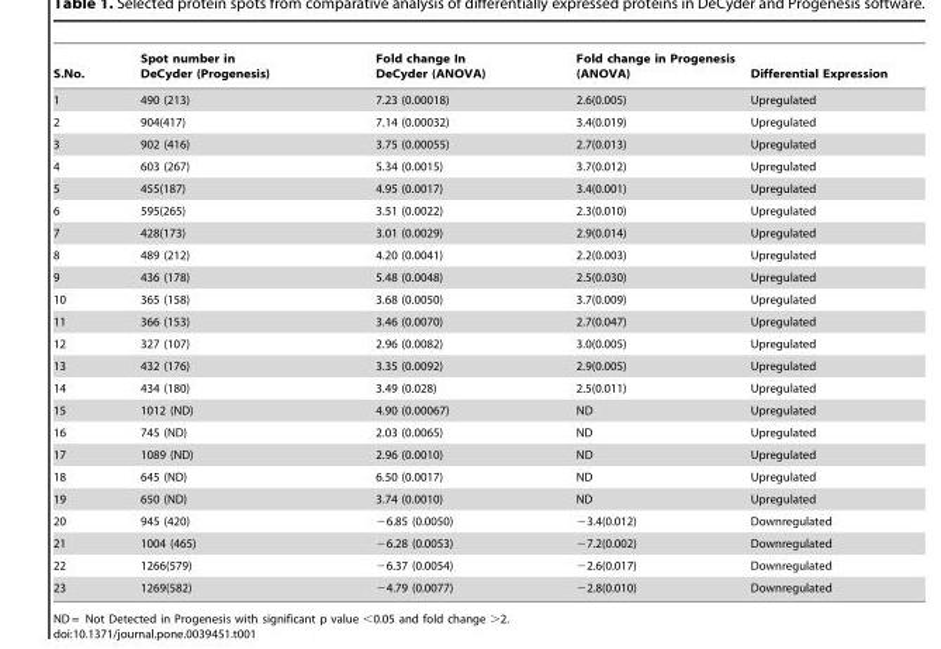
<table><thead><tr><td>S.No.</td><td>Spot number in DeCyder (Progenesis)</td><td>Fold change In DeCyder (ANOVA)</td><td>Fold change in Progenesis (ANOVA)</td><td>Differential Expression</td></tr></thead><tbody><tr><td>1</td><td>490 (213)</td><td>7.23 (0.00018)</td><td>2.6(0.005)</td><td>Upregulated</td></tr><tr><td>2</td><td>904(417)</td><td>7.14 (0.00032)</td><td>3.4(0.019)</td><td>Upregulated</td></tr><tr><td>3</td><td>902 (416)</td><td>3.75 (0.00055)</td><td>2.7(0.013)</td><td>Upregulated</td></tr><tr><td>4</td><td>603 (267)</td><td>5.34 (0.0015)</td><td>3.7(0.012)</td><td>Upregulated</td></tr><tr><td>5</td><td>455(187)</td><td>4.95 (0.0017)</td><td>3.4(0.001)</td><td>Upregulated</td></tr><tr><td>6</td><td>595(265)</td><td>3.51 (0.0022)</td><td>2.3(0.010)</td><td>Upregulated</td></tr><tr><td>7</td><td>428(173)</td><td>3.01 (0.0029)</td><td>2.9(0.014)</td><td>Upregulated</td></tr><tr><td>8</td><td>489 (212)</td><td>4.20 (0.0041)</td><td>2.2(0.003)</td><td>Upregulated</td></tr><tr><td>9</td><td>436 (178)</td><td>5.48 (0.0048)</td><td>2.5(0.030)</td><td>Upregulated</td></tr><tr><td>10</td><td>365 (158)</td><td>3.68 (0.0050)</td><td>3.7(0.009)</td><td>Upregulated</td></tr><tr><td>11</td><td>366 (153)</td><td>3.46 (0.0070)</td><td>2.7(0.047)</td><td>Upregulated</td></tr><tr><td>12</td><td>327 (107)</td><td>2.96 (0.0082)</td><td>3.0(0.005)</td><td>Upregulated</td></tr><tr><td>13</td><td>432 (176)</td><td>3.35 (0.0092)</td><td>2.9(0.005)</td><td>Upregulated</td></tr><tr><td>14</td><td>434 (180)</td><td>3.49 (0.028)</td><td>2.5(0.011)</td><td>Upregulated</td></tr><tr><td>15</td><td>1012 (ND)</td><td>4.90 (0.00067)</td><td>ND</td><td>Upregulated</td></tr><tr><td>16</td><td>745 (ND)</td><td>2.03 (0.0065)</td><td>ND</td><td>Upregulated</td></tr><tr><td>17</td><td>1089 (ND)</td><td>2.96 (0.0010)</td><td>ND</td><td>Upregulated</td></tr><tr><td>18</td><td>645 (ND)</td><td>6.50 (0.0017)</td><td>ND</td><td>Upregulated</td></tr><tr><td>19</td><td>650 (ND)</td><td>3.74 (0.0010)</td><td>ND</td><td>Upregulated</td></tr><tr><td>20</td><td>945 (420)</td><td>−6.85 (0.0050)</td><td>−3.4(0.012)</td><td>Downregulated</td></tr><tr><td>21</td><td>1004 (465)</td><td>−6.28 (0.0053)</td><td>−7.2(0.002)</td><td>Downregulated</td></tr><tr><td>22</td><td>1266(579)</td><td>−6.37 (0.0054)</td><td>−2.6(0.017)</td><td>Downregulated</td></tr><tr><td>23</td><td>1269(582)</td><td>−4.79 (0.0077)</td><td>−2.8(0.010)</td><td>Downregulated</td></tr></tbody></table>